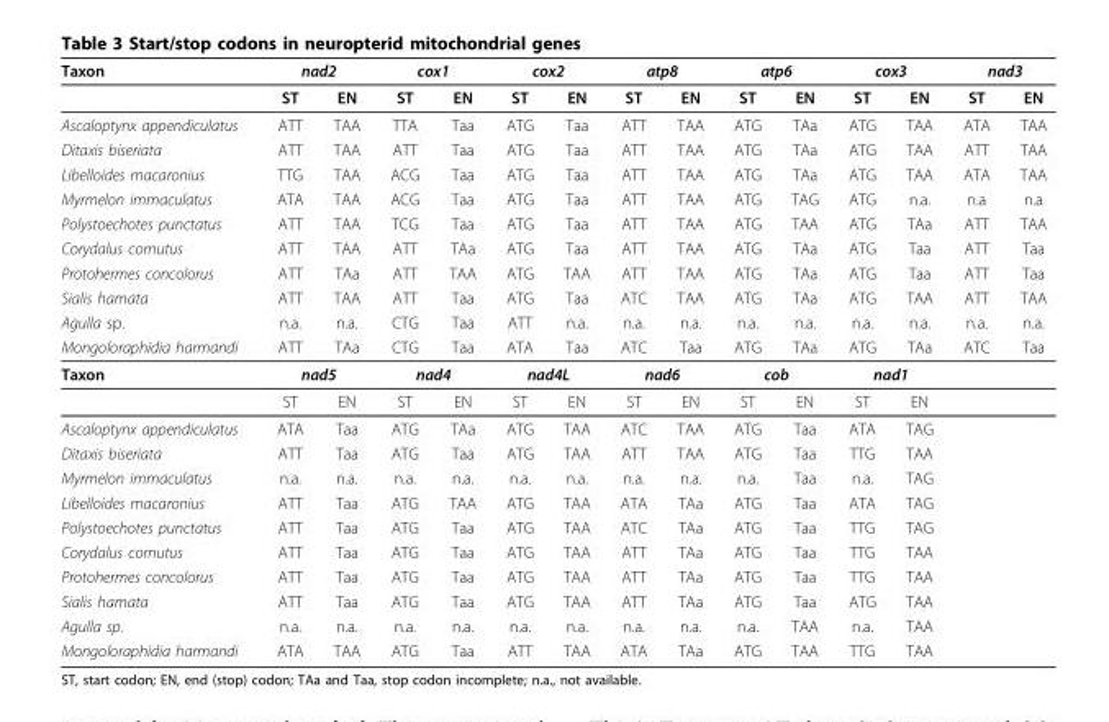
<table><thead><tr><td rowspan="2">Taxon</td><td colspan="2">nad2</td><td colspan="2">cox1</td><td colspan="2">cox2</td><td colspan="2">atp8</td><td colspan="2">atp6</td><td colspan="2">cox3</td><td colspan="2">nad3</td></tr><tr><td>ST</td><td>EN</td><td>ST</td><td>EN</td><td>ST</td><td>EN</td><td>ST</td><td>EN</td><td>ST</td><td>EN</td><td>ST</td><td>EN</td><td>ST</td><td>EN</td></tr></thead><tbody><tr><td>Ascaloptynx appendiculatus</td><td>ATT</td><td>TAA</td><td>TTA</td><td>Taa</td><td>ATG</td><td>Taa</td><td>ATT</td><td>TAA</td><td>ATG</td><td>TAa</td><td>ATG</td><td>TAA</td><td>ATA</td><td>TAA</td></tr><tr><td>Ditaxis biseriata</td><td>ATT</td><td>TAA</td><td>ATT</td><td>Taa</td><td>ATG</td><td>Taa</td><td>ATT</td><td>TAA</td><td>ATG</td><td>TAa</td><td>ATG</td><td>TAA</td><td>ATT</td><td>TAA</td></tr><tr><td>Libelloides macaronius</td><td>TTG</td><td>TAA</td><td>ACG</td><td>Taa</td><td>ATG</td><td>Taa</td><td>ATT</td><td>TAA</td><td>ATG</td><td>TAa</td><td>ATG</td><td>TAA</td><td>ATA</td><td>TAA</td></tr><tr><td>Myrmelon immaculatus</td><td>ATA</td><td>TAA</td><td>ACG</td><td>Taa</td><td>ATG</td><td>Taa</td><td>ATT</td><td>TAA</td><td>ATG</td><td>TAG</td><td>ATG</td><td>n.a.</td><td>n.a</td><td>n.a</td></tr><tr><td>Polystoechotes punctatus</td><td>ATT</td><td>TAA</td><td>TCG</td><td>Taa</td><td>ATG</td><td>Taa</td><td>ATT</td><td>TAA</td><td>ATG</td><td>TAA</td><td>ATG</td><td>TAa</td><td>ATT</td><td>TAA</td></tr><tr><td>Corydalus cornutus</td><td>ATT</td><td>TAA</td><td>ATT</td><td>TAa</td><td>ATG</td><td>Taa</td><td>ATT</td><td>TAA</td><td>ATG</td><td>TAa</td><td>ATG</td><td>Taa</td><td>ATT</td><td>Taa</td></tr><tr><td>Protohermes concolorus</td><td>ATT</td><td>TAa</td><td>ATT</td><td>TAA</td><td>ATG</td><td>TAA</td><td>ATT</td><td>TAA</td><td>ATG</td><td>TAa</td><td>ATG</td><td>Taa</td><td>ATT</td><td>Taa</td></tr><tr><td>Sialis hamata</td><td>ATT</td><td>TAA</td><td>ATT</td><td>Taa</td><td>ATG</td><td>Taa</td><td>ATC</td><td>TAA</td><td>ATG</td><td>TAa</td><td>ATG</td><td>TAA</td><td>ATT</td><td>TAA</td></tr><tr><td>Agulla sp.</td><td>n.a.</td><td>n.a.</td><td>CTG</td><td>Taa</td><td>ATT</td><td>n.a.</td><td>n.a.</td><td>n.a.</td><td>n.a.</td><td>n.a.</td><td>n.a.</td><td>n.a.</td><td>n.a.</td><td>n.a.</td></tr><tr><td>Mongoloraphidia harmandi</td><td>ATT</td><td>TAa</td><td>CTG</td><td>Taa</td><td>ATA</td><td>Taa</td><td>ATC</td><td>Taa</td><td>ATG</td><td>TAa</td><td>ATG</td><td>TAa</td><td>ATC</td><td>Taa</td></tr><tr><td rowspan="2">Taxon</td><td colspan="2">nad5</td><td colspan="2">nad4</td><td colspan="2">nad4L</td><td colspan="2">nad6</td><td colspan="2">cob</td><td colspan="2">nad1</td><td></td><td></td></tr><tr><td>ST</td><td>EN</td><td>ST</td><td>EN</td><td>ST</td><td>EN</td><td>ST</td><td>EN</td><td>ST</td><td>EN</td><td>ST</td><td>EN</td><td></td><td></td></tr><tr><td>Ascaloptynx appendiculatus</td><td>ATA</td><td>Taa</td><td>ATG</td><td>TAa</td><td>ATG</td><td>TAA</td><td>ATC</td><td>TAA</td><td>ATG</td><td>Taa</td><td>ATA</td><td>TAG</td><td></td><td></td></tr><tr><td>Ditaxis biseriata</td><td>ATT</td><td>Taa</td><td>ATG</td><td>Taa</td><td>ATG</td><td>TAA</td><td>ATT</td><td>TAA</td><td>ATG</td><td>Taa</td><td>TTG</td><td>TAA</td><td></td><td></td></tr><tr><td>Myrmelon immaculatus</td><td>n.a.</td><td>n.a.</td><td>n.a.</td><td>n.a.</td><td>n.a.</td><td>n.a.</td><td>n.a.</td><td>n.a.</td><td>n.a.</td><td>Taa</td><td>n.a.</td><td>TAG</td><td></td><td></td></tr><tr><td>Libelloides macaronius</td><td>ATT</td><td>Taa</td><td>ATG</td><td>TAA</td><td>ATG</td><td>TAA</td><td>ATA</td><td>TAa</td><td>ATG</td><td>Taa</td><td>ATA</td><td>TAG</td><td></td><td></td></tr><tr><td>Polystoechotes punctatus</td><td>ATT</td><td>Taa</td><td>ATG</td><td>Taa</td><td>ATG</td><td>TAA</td><td>ATC</td><td>TAa</td><td>ATG</td><td>Taa</td><td>TTG</td><td>TAG</td><td></td><td></td></tr><tr><td>Corydalus cornutus</td><td>ATT</td><td>Taa</td><td>ATG</td><td>Taa</td><td>ATG</td><td>TAA</td><td>ATT</td><td>TAa</td><td>ATG</td><td>Taa</td><td>TTG</td><td>TAA</td><td></td><td></td></tr><tr><td>Protohermes concolorus</td><td>ATT</td><td>Taa</td><td>ATG</td><td>Taa</td><td>ATG</td><td>TAA</td><td>ATT</td><td>TAa</td><td>ATG</td><td>Taa</td><td>TTG</td><td>TAA</td><td></td><td></td></tr><tr><td>Sialis hamata</td><td>ATT</td><td>Taa</td><td>ATG</td><td>Taa</td><td>ATG</td><td>TAA</td><td>ATT</td><td>TAa</td><td>ATG</td><td>Taa</td><td>ATG</td><td>TAA</td><td></td><td></td></tr><tr><td>Agulla sp.</td><td>n.a.</td><td>n.a.</td><td>n.a.</td><td>n.a.</td><td>n.a.</td><td>n.a.</td><td>n.a.</td><td>n.a.</td><td>n.a.</td><td>TAA</td><td>n.a.</td><td>TAA</td><td></td><td></td></tr><tr><td>Mongoloraphidia harmandi</td><td>ATA</td><td>TAA</td><td>ATG</td><td>Taa</td><td>ATT</td><td>TAA</td><td>ATA</td><td>TAa</td><td>ATG</td><td>TAA</td><td>TTG</td><td>TAA</td><td></td><td></td></tr></tbody></table>